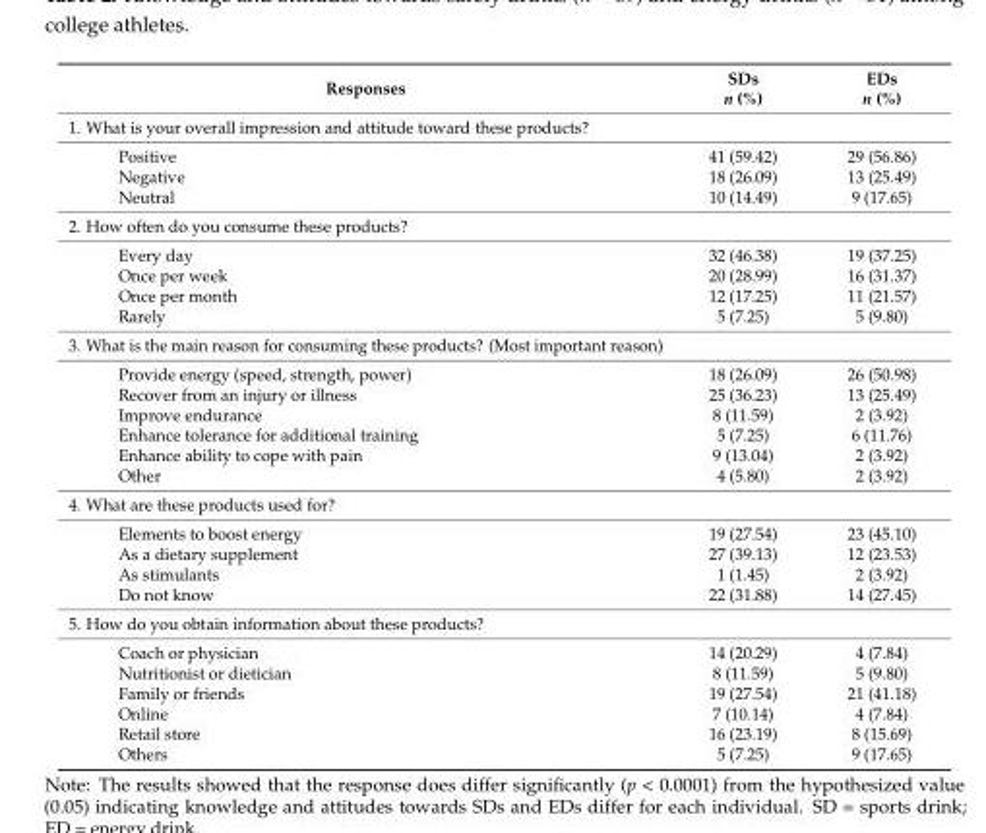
<table><thead><tr><td>Responses</td><td>SDs n (%)</td><td>EDs n (%)</td></tr></thead><tbody><tr><td colspan="3">1. What is your overall impression and attitude toward these products?</td></tr><tr><td>Positive</td><td>41 (59.42)</td><td>29 (56.86)</td></tr><tr><td>Negative</td><td>18 (26.09)</td><td>13 (25.49)</td></tr><tr><td>Neutral</td><td>10 (14.49)</td><td>9 (17.65)</td></tr><tr><td colspan="3">2. How often do you consume these products?</td></tr><tr><td>Every day</td><td>32 (46.38)</td><td>19 (37.25)</td></tr><tr><td>Once per week</td><td>20 (28.99)</td><td>16 (31.37)</td></tr><tr><td>Once per month</td><td>12 (17.25)</td><td>11 (21.57)</td></tr><tr><td>Rarely</td><td>5 (7.25)</td><td>5 (9.80)</td></tr><tr><td colspan="3">3. What is the main reason for consuming these products? (Most important reason)</td></tr><tr><td>Provide energy (speed, strength, power)</td><td>18 (26.09)</td><td>26 (50.98)</td></tr><tr><td>Recover from an injury or illness</td><td>25 (36.23)</td><td>13 (25.49)</td></tr><tr><td>Improve endurance</td><td>8 (11.59)</td><td>2 (3.92)</td></tr><tr><td>Enhance tolerance for additional training</td><td>5 (7.25)</td><td>6 (11.76)</td></tr><tr><td>Enhance ability to cope with pain</td><td>9 (13.04)</td><td>2 (3.92)</td></tr><tr><td>Other</td><td>4 (5.80)</td><td>2 (3.92)</td></tr><tr><td colspan="3">4. What are these products used for?</td></tr><tr><td>Elements to boost energy</td><td>19 (27.54)</td><td>23 (45.10)</td></tr><tr><td>As a dietary supplement</td><td>27 (39.13)</td><td>12 (23.53)</td></tr><tr><td>As stimulants</td><td>1 (1.45)</td><td>2 (3.92)</td></tr><tr><td>Do not know</td><td>22 (31.88)</td><td>14 (27.45)</td></tr><tr><td colspan="3">5. How do you obtain information about these products?</td></tr><tr><td>Coach or physician</td><td>14 (20.29)</td><td>4 (7.84)</td></tr><tr><td>Nutritionist or dietician</td><td>8 (11.59)</td><td>5 (9.80)</td></tr><tr><td>Family or friends</td><td>19 (27.54)</td><td>21 (41.18)</td></tr><tr><td>Online</td><td>7 (10.14)</td><td>4 (7.84)</td></tr><tr><td>Retail store</td><td>16 (23.19)</td><td>8 (15.69)</td></tr><tr><td>Others</td><td>5 (7.25)</td><td>9 (17.65)</td></tr></tbody></table>